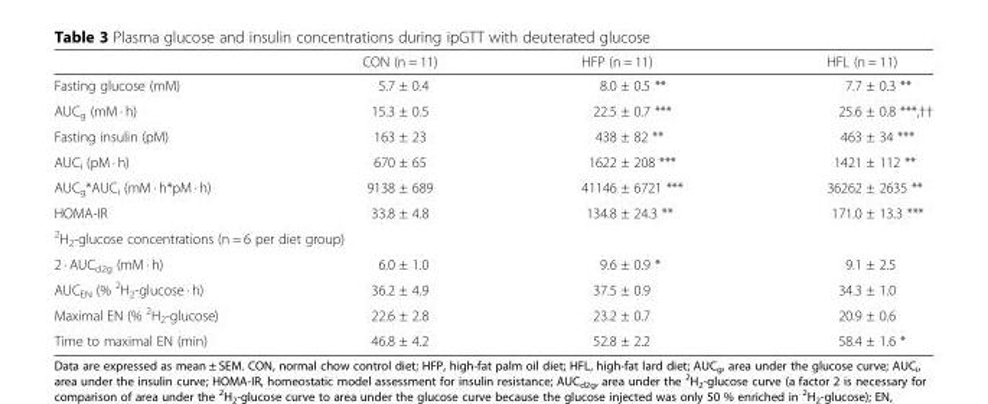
<table><thead><tr><td></td><td>CON (n = 11)</td><td>HFP (n = 11)</td><td>HFL (n = 11)</td></tr></thead><tbody><tr><td>Fasting glucose (mM)</td><td>5.7 ± 0.4</td><td>8.0 ± 0.5 **</td><td>7.7 ± 0.3 **</td></tr><tr><td>AUC<sub>g</sub> (mM · h)</td><td>15.3 ± 0.5</td><td>22.5 ± 0.7 ***</td><td>25.6 ± 0.8 ***,††</td></tr><tr><td>Fasting insulin (pM)</td><td>163 ± 23</td><td>438 ± 82 **</td><td>463 ± 34 ***</td></tr><tr><td>AUC<sub>i</sub> (pM · h)</td><td>670 ± 65</td><td>1622 ± 208 ***</td><td>1421 ± 112 **</td></tr><tr><td>AUC<sub>g</sub>*AUC<sub>i</sub> (mM · h*pM · h)</td><td>9138 ± 689</td><td>41146 ± 6721 ***</td><td>36262 ± 2635 **</td></tr><tr><td>HOMA-IR</td><td>33.8 ± 4.8</td><td>134.8 ± 24.3 **</td><td>171.0 ± 13.3 ***</td></tr><tr><td colspan="4"><sup>2</sup>H<sub>2</sub>-glucose concentrations (n = 6 per diet group)</td></tr><tr><td>2 · AUC<sub>d2g</sub> (mM · h)</td><td>6.0 ± 1.0</td><td>9.6 ± 0.9 *</td><td>9.1 ± 2.5</td></tr><tr><td>AUC<sub>EN</sub> (% <sup>2</sup>H<sub>2</sub>-glucose · h)</td><td>36.2 ± 4.9</td><td>37.5 ± 0.9</td><td>34.3 ± 1.0</td></tr><tr><td>Maximal EN (% <sup>2</sup>H<sub>2</sub>-glucose)</td><td>22.6 ± 2.8</td><td>23.2 ± 0.7</td><td>20.9 ± 0.6</td></tr><tr><td>Time to maximal EN (min)</td><td>46.8 ± 4.2</td><td>52.8 ± 2.2</td><td>58.4 ± 1.6 *</td></tr></tbody></table>